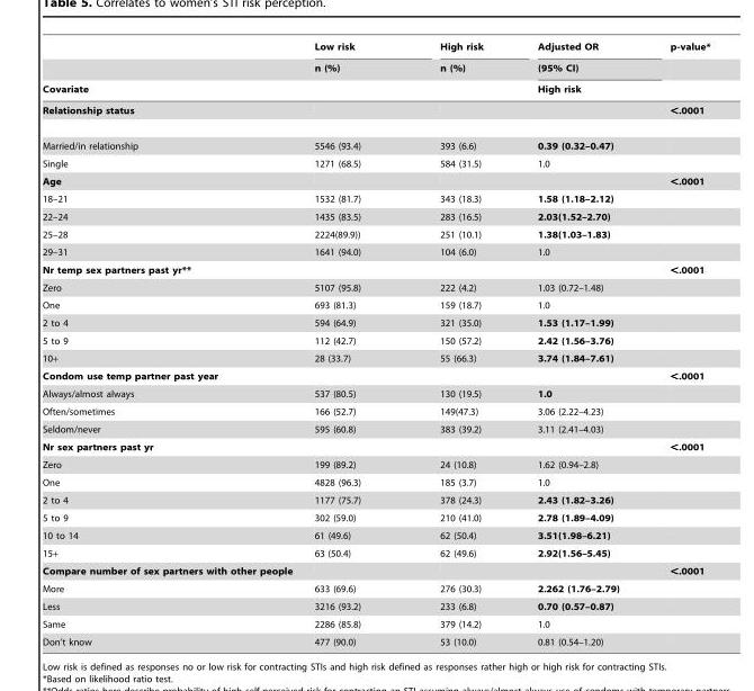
<table><thead><tr><td rowspan="3">Covariate</td><td rowspan="3">Low risk n (%)</td><td rowspan="3">High risk n (%)</td><td rowspan="3">Adjusted OR (95% CI) High risk</td><td rowspan="3">p-value*</td></tr><tr></tr><tr></tr></thead><tbody><tr><td>Relationship status</td><td></td><td></td><td></td><td>&lt;.0001</td></tr><tr><td>Married/in relationship</td><td>5546 (93.4)</td><td>393 (6.6)</td><td>0.39 (0.32–0.47)</td><td></td></tr><tr><td>Single</td><td>1271 (68.5)</td><td>584 (31.5)</td><td>1.0</td><td></td></tr><tr><td>Age</td><td></td><td></td><td></td><td>&lt;.0001</td></tr><tr><td>18–21</td><td>1532 (81.7)</td><td>343 (18.3)</td><td>1.58 (1.18–2.12)</td><td></td></tr><tr><td>22–24</td><td>1435 (83.5)</td><td>283 (16.5)</td><td>2.03(1.52–2.70)</td><td></td></tr><tr><td>25–28</td><td>2224(89.9))</td><td>251 (10.1)</td><td>1.38(1.03–1.83)</td><td></td></tr><tr><td>29–31</td><td>1641 (94.0)</td><td>104 (6.0)</td><td>1.0</td><td></td></tr><tr><td>Nr temp sex partners past yr**</td><td></td><td></td><td></td><td>&lt;.0001</td></tr><tr><td>Zero</td><td>5107 (95.8)</td><td>222 (4.2)</td><td>1.03 (0.72–1.48)</td><td></td></tr><tr><td>One</td><td>693 (81.3)</td><td>159 (18.7)</td><td>1.0</td><td></td></tr><tr><td>2 to 4</td><td>594 (64.9)</td><td>321 (35.0)</td><td>1.53 (1.17–1.99)</td><td></td></tr><tr><td>5 to 9</td><td>112 (42.7)</td><td>150 (57.2)</td><td>2.42 (1.56–3.76)</td><td></td></tr><tr><td>10+</td><td>28 (33.7)</td><td>55 (66.3)</td><td>3.74 (1.84–7.61)</td><td></td></tr><tr><td>Condom use temp partner past year</td><td></td><td></td><td></td><td>&lt;.0001</td></tr><tr><td>Always/almost always</td><td>537 (80.5)</td><td>130 (19.5)</td><td>1.0</td><td></td></tr><tr><td>Often/sometimes</td><td>166 (52.7)</td><td>149(47.3)</td><td>3.06 (2.22–4.23)</td><td></td></tr><tr><td>Seldom/never</td><td>595 (60.8)</td><td>383 (39.2)</td><td>3.11 (2.41–4.03)</td><td></td></tr><tr><td>Nr sex partners past yr</td><td></td><td></td><td></td><td>&lt;.0001</td></tr><tr><td>Zero</td><td>199 (89.2)</td><td>24 (10.8)</td><td>1.62 (0.94–2.8)</td><td></td></tr><tr><td>One</td><td>4828 (96.3)</td><td>185 (3.7)</td><td>1.0</td><td></td></tr><tr><td>2 to 4</td><td>1177 (75.7)</td><td>378 (24.3)</td><td>2.43 (1.82–3.26)</td><td></td></tr><tr><td>5 to 9</td><td>302 (59.0)</td><td>210 (41.0)</td><td>2.78 (1.89–4.09)</td><td></td></tr><tr><td>10 to 14</td><td>61 (49.6)</td><td>62 (50.4)</td><td>3.51(1.98–6.21)</td><td></td></tr><tr><td>15+</td><td>63 (50.4)</td><td>62 (49.6)</td><td>2.92(1.56–5.45)</td><td></td></tr><tr><td>Compare number of sex partners with other people</td><td></td><td></td><td></td><td>&lt;.0001</td></tr><tr><td>More</td><td>633 (69.6)</td><td>276 (30.3)</td><td>2.262 (1.76–2.79)</td><td></td></tr><tr><td>Less</td><td>3216 (93.2)</td><td>233 (6.8)</td><td>0.70 (0.57–0.87)</td><td></td></tr><tr><td>Same</td><td>2286 (85.8)</td><td>379 (14.2)</td><td>1.0</td><td></td></tr><tr><td>Don’t know</td><td>477 (90.0)</td><td>53 (10.0)</td><td>0.81 (0.54–1.20)</td><td></td></tr></tbody></table>